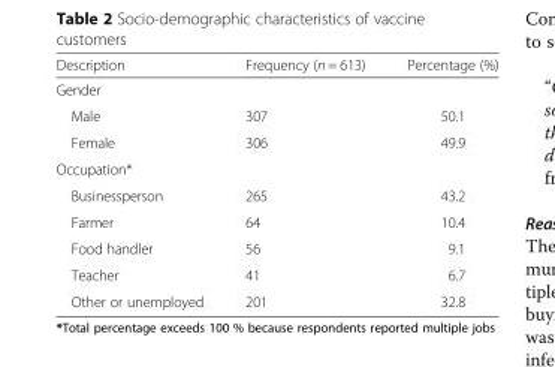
<table><thead><tr><td>Description</td><td>Frequency (n = 613)</td><td>Percentage (%)</td></tr></thead><tbody><tr><td colspan="3">Gender</td></tr><tr><td>Male</td><td>307</td><td>50.1</td></tr><tr><td>Female</td><td>306</td><td>49.9</td></tr><tr><td colspan="3">Occupation*</td></tr><tr><td>Businessperson</td><td>265</td><td>43.2</td></tr><tr><td>Farmer</td><td>64</td><td>10.4</td></tr><tr><td>Food handler</td><td>56</td><td>9.1</td></tr><tr><td>Teacher</td><td>41</td><td>6.7</td></tr><tr><td>Other or unemployed</td><td>201</td><td>32.8</td></tr></tbody></table>